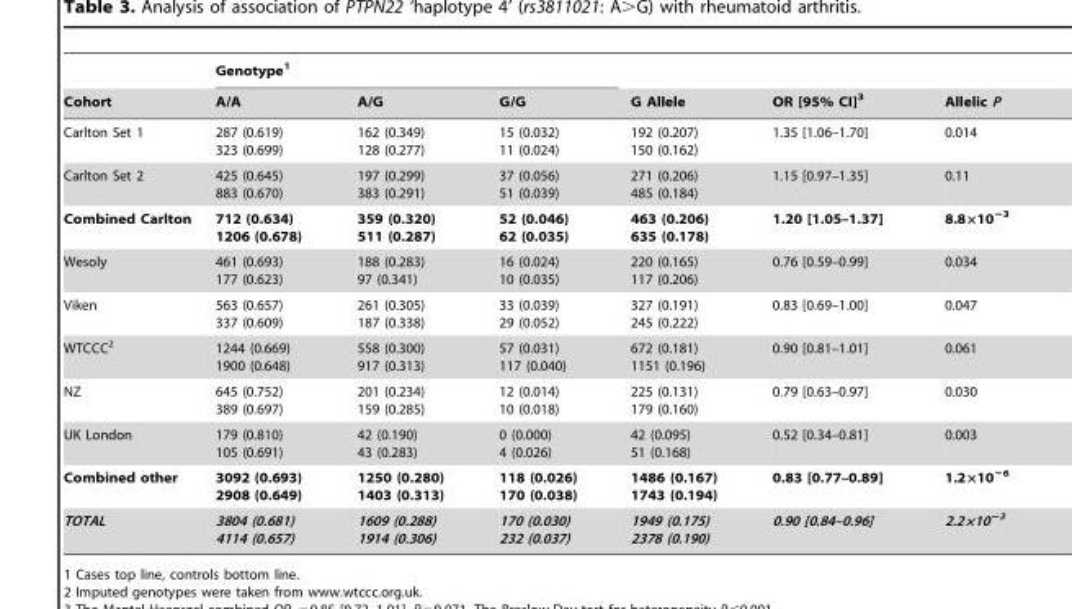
<table><thead><tr><td rowspan="2">Cohort</td><td colspan="3">Genotype<sup>1</sup></td><td rowspan="2">G Allele</td><td rowspan="2">OR [95% CI]<sup>3</sup></td><td rowspan="2">Allelic P</td></tr><tr><td>A/A</td><td>A/G</td><td>G/G</td></tr></thead><tbody><tr><td>Carlton Set 1</td><td>287 (0.619) 323 (0.699)</td><td>162 (0.349) 128 (0.277)</td><td>15 (0.032) 11 (0.024)</td><td>192 (0.207) 150 (0.162)</td><td>1.35 [1.06–1.70]</td><td>0.014</td></tr><tr><td>Carlton Set 2</td><td>425 (0.645) 883 (0.670)</td><td>197 (0.299) 383 (0.291)</td><td>37 (0.056) 51 (0.039)</td><td>271 (0.206) 485 (0.184)</td><td>1.15 [0.97–1.35]</td><td>0.11</td></tr><tr><td>Combined Carlton</td><td>712 (0.634) 1206 (0.678)</td><td>359 (0.320) 511 (0.287)</td><td>52 (0.046) 62 (0.035)</td><td>463 (0.206) 635 (0.178)</td><td>1.20 [1.05–1.37]</td><td>8.8×10<sup>−3</sup></td></tr><tr><td>Wesoly</td><td>461 (0.693) 177 (0.623)</td><td>188 (0.283) 97 (0.341)</td><td>16 (0.024) 10 (0.035)</td><td>220 (0.165) 117 (0.206)</td><td>0.76 [0.59–0.99]</td><td>0.034</td></tr><tr><td>Viken</td><td>563 (0.657) 337 (0.609)</td><td>261 (0.305) 187 (0.338)</td><td>33 (0.039) 29 (0.052)</td><td>327 (0.191) 245 (0.222)</td><td>0.83 [0.69–1.00]</td><td>0.047</td></tr><tr><td>WTCCC<sup>2</sup></td><td>1244 (0.669) 1900 (0.648)</td><td>558 (0.300) 917 (0.313)</td><td>57 (0.031) 117 (0.040)</td><td>672 (0.181) 1151 (0.196)</td><td>0.90 [0.81–1.01]</td><td>0.061</td></tr><tr><td>NZ</td><td>645 (0.752) 389 (0.697)</td><td>201 (0.234) 159 (0.285)</td><td>12 (0.014) 10 (0.018)</td><td>225 (0.131) 179 (0.160)</td><td>0.79 [0.63–0.97]</td><td>0.030</td></tr><tr><td>UK London</td><td>179 (0.810) 105 (0.691)</td><td>42 (0.190) 43 (0.283)</td><td>0 (0.000) 4 (0.026)</td><td>42 (0.095) 51 (0.168)</td><td>0.52 [0.34–0.81]</td><td>0.003</td></tr><tr><td>Combined other</td><td>3092 (0.693) 2908 (0.649)</td><td>1250 (0.280) 1403 (0.313)</td><td>118 (0.026) 170 (0.038)</td><td>1486 (0.167) 1743 (0.194)</td><td>0.83 [0.77–0.89]</td><td>1.2×10<sup>−6</sup></td></tr><tr><td>TOTAL</td><td>3804 (0.681) 4114 (0.657)</td><td>1609 (0.288) 1914 (0.306)</td><td>170 (0.030) 232 (0.037)</td><td>1949 (0.175) 2378 (0.190)</td><td>0.90 [0.84–0.96]</td><td>2.2×10<sup>−3</sup></td></tr></tbody></table>